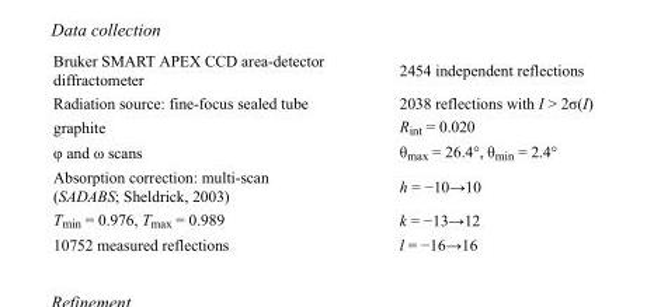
<table><tbody><tr><td>Bruker SMART APEX CCD area-detector diffractometer</td><td>2454 independent reflections</td></tr><tr><td>Radiation source: fine-focus sealed tube</td><td>2038 reflections with I &gt; 2σ(I)</td></tr><tr><td>graphite</td><td>R<sub>int</sub> = 0.020</td></tr><tr><td>φ and ω scans</td><td>θ<sub>max</sub> = 26.4°, θ<sub>min</sub> = 2.4°</td></tr><tr><td>Absorption correction: multi-scan (SADABS; Sheldrick, 2003)</td><td>h = −10→10</td></tr><tr><td>T<sub>min</sub> = 0.976, T<sub>max</sub> = 0.989</td><td>k = −13→12</td></tr><tr><td>10752 measured reflections</td><td>l = −16→16</td></tr></tbody></table>